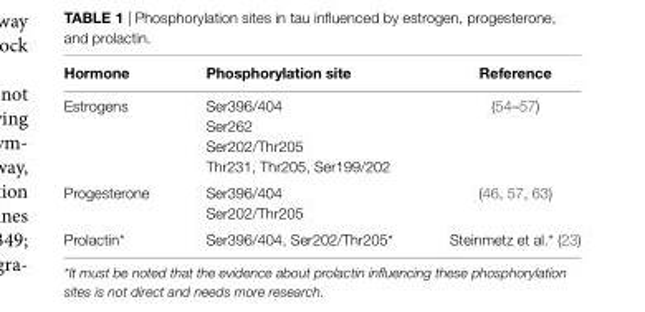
<table><thead><tr><td>Hormone</td><td>Phosphorylation site</td><td>Reference</td></tr></thead><tbody><tr><td rowspan="4">Estrogens</td><td>Ser396/404</td><td rowspan="4">(54–57)</td></tr><tr><td>Ser262</td></tr><tr><td>Ser202/Thr205</td></tr><tr><td>Thr231, Thr205, Ser199/202</td></tr><tr><td rowspan="2">Progesterone</td><td>Ser396/404</td><td rowspan="2">(46, 57, 63)</td></tr><tr><td>Ser202/Thr205</td></tr><tr><td>Prolactin*</td><td>Ser396/404, Ser202/Thr205*</td><td>Steinmetz et al.* (23)</td></tr></tbody></table>